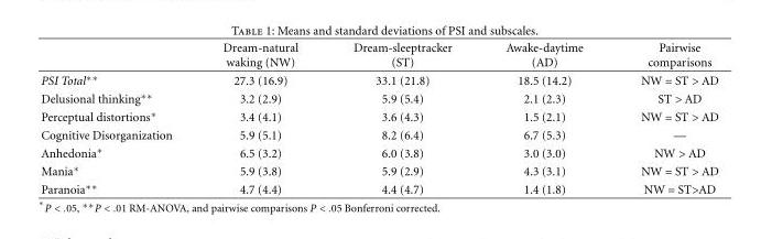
<table><thead><tr><td></td><td>Dream-natural waking (NW)</td><td>Dream-sleeptracker (ST)</td><td>Awake-daytime (AD)</td><td>Pairwise comparisons</td></tr></thead><tbody><tr><td>PSI Total∗∗</td><td>27.3 (16.9)</td><td>33.1 (21.8)</td><td>18.5 (14.2)</td><td>NW = ST &gt; AD</td></tr><tr><td>Delusional thinking∗∗</td><td>3.2 (2.9)</td><td>5.9 (5.4)</td><td>2.1 (2.3)</td><td>ST &gt; AD</td></tr><tr><td>Perceptual distortions∗</td><td>3.4 (4.1)</td><td>3.6 (4.3)</td><td>1.5 (2.1)</td><td>NW = ST &gt; AD</td></tr><tr><td>Cognitive Disorganization</td><td>5.9 (5.1)</td><td>8.2 (6.4)</td><td>6.7 (5.3)</td><td>—</td></tr><tr><td>Anhedonia∗</td><td>6.5 (3.2)</td><td>6.0 (3.8)</td><td>3.0 (3.0)</td><td>NW &gt; AD</td></tr><tr><td>Mania∗</td><td>5.9 (3.8)</td><td>5.9 (2.9)</td><td>4.3 (3.1)</td><td>NW = ST &gt; AD</td></tr><tr><td>Paranoia∗∗</td><td>4.7 (4.4)</td><td>4.4 (4.7)</td><td>1.4 (1.8)</td><td>NW = ST&gt;AD</td></tr></tbody></table>